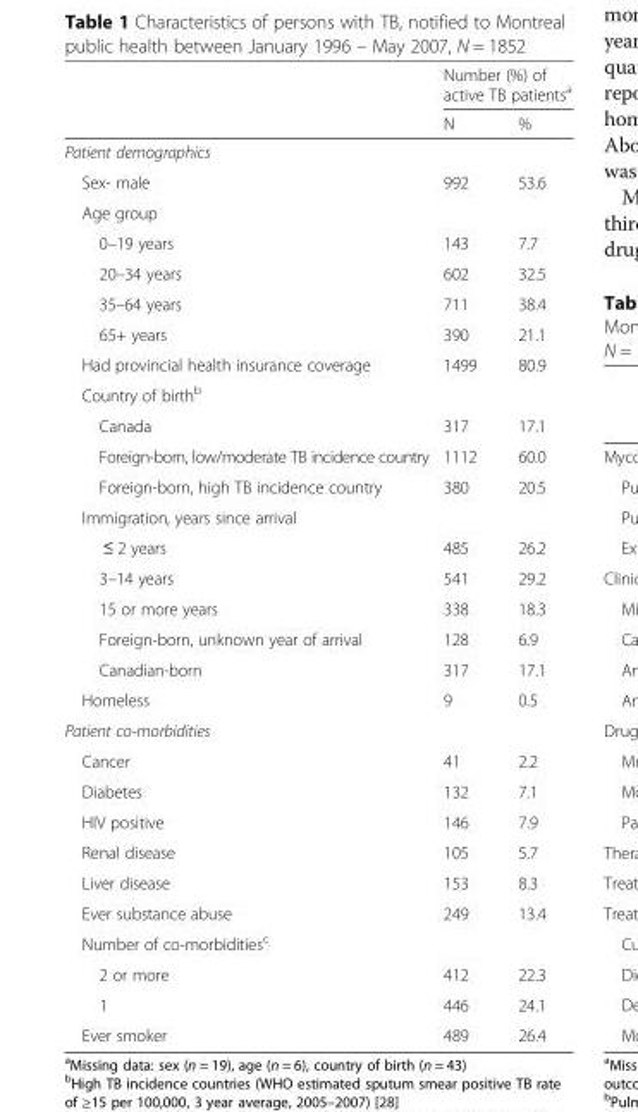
<table><thead><tr><td rowspan="2"></td><td colspan="2">Number (%) of active TB patients<sup>a</sup></td></tr><tr><td>N</td><td>%</td></tr></thead><tbody><tr><td colspan="3">Patient demographics</td></tr><tr><td>Sex- male</td><td>992</td><td>53.6</td></tr><tr><td colspan="3">Age group</td></tr><tr><td>0–19 years</td><td>143</td><td>7.7</td></tr><tr><td>20–34 years</td><td>602</td><td>32.5</td></tr><tr><td>35–64 years</td><td>711</td><td>38.4</td></tr><tr><td>65+ years</td><td>390</td><td>21.1</td></tr><tr><td>Had provincial health insurance coverage</td><td>1499</td><td>80.9</td></tr><tr><td colspan="3">Country of birth<sup>b</sup></td></tr><tr><td>Canada</td><td>317</td><td>17.1</td></tr><tr><td>Foreign-born, low/moderate TB incidence country</td><td>1112</td><td>60.0</td></tr><tr><td>Foreign-born, high TB incidence country</td><td>380</td><td>20.5</td></tr><tr><td colspan="3">Immigration, years since arrival</td></tr><tr><td>≤ 2 years</td><td>485</td><td>26.2</td></tr><tr><td>3–14 years</td><td>541</td><td>29.2</td></tr><tr><td>15 or more years</td><td>338</td><td>18.3</td></tr><tr><td>Foreign-born, unknown year of arrival</td><td>128</td><td>6.9</td></tr><tr><td>Canadian-born</td><td>317</td><td>17.1</td></tr><tr><td>Homeless</td><td>9</td><td>0.5</td></tr><tr><td colspan="3">Patient co-morbidities</td></tr><tr><td>Cancer</td><td>41</td><td>2.2</td></tr><tr><td>Diabetes</td><td>132</td><td>7.1</td></tr><tr><td>HIV positive</td><td>146</td><td>7.9</td></tr><tr><td>Renal disease</td><td>105</td><td>5.7</td></tr><tr><td>Liver disease</td><td>153</td><td>8.3</td></tr><tr><td>Ever substance abuse</td><td>249</td><td>13.4</td></tr><tr><td colspan="3">Number of co-morbidities<sup>c</sup></td></tr><tr><td>2 or more</td><td>412</td><td>22.3</td></tr><tr><td>1</td><td>446</td><td>24.1</td></tr><tr><td>Ever smoker</td><td>489</td><td>26.4</td></tr></tbody></table>